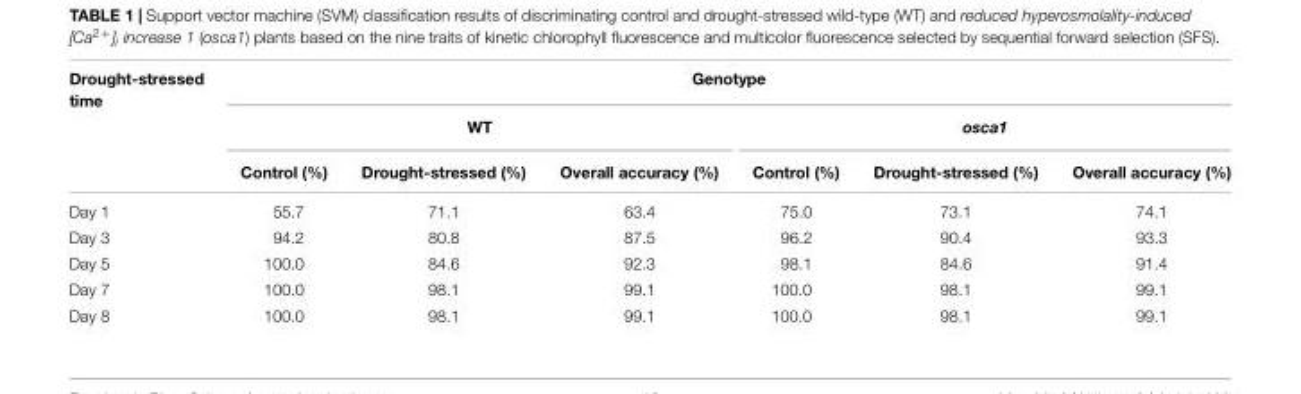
<table><thead><tr><td rowspan="3">Drought-stressed time</td><td colspan="6">Genotype</td></tr><tr><td colspan="3">WT</td><td colspan="3">osca1</td></tr><tr><td>Control (%)</td><td>Drought-stressed (%)</td><td>Overall accuracy (%)</td><td>Control (%)</td><td>Drought-stressed (%)</td><td>Overall accuracy (%)</td></tr></thead><tbody><tr><td>Day 1</td><td>55.7</td><td>71.1</td><td>63.4</td><td>75.0</td><td>73.1</td><td>74.1</td></tr><tr><td>Day 3</td><td>94.2</td><td>80.8</td><td>87.5</td><td>96.2</td><td>90.4</td><td>93.3</td></tr><tr><td>Day 5</td><td>100.0</td><td>84.6</td><td>92.3</td><td>98.1</td><td>84.6</td><td>91.4</td></tr><tr><td>Day 7</td><td>100.0</td><td>98.1</td><td>99.1</td><td>100.0</td><td>98.1</td><td>99.1</td></tr><tr><td>Day 8</td><td>100.0</td><td>98.1</td><td>99.1</td><td>100.0</td><td>98.1</td><td>99.1</td></tr></tbody></table>